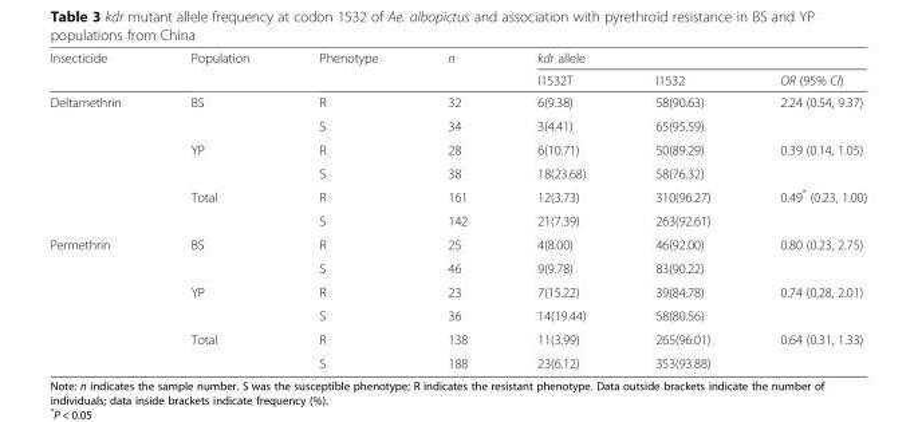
<table><thead><tr><td rowspan="2">Insecticide</td><td rowspan="2">Population</td><td rowspan="2">Phenotype</td><td rowspan="2">n</td><td colspan="3">kdr allele</td></tr><tr><td>I1532T</td><td>I1532</td><td>OR (95% CI)</td></tr></thead><tbody><tr><td rowspan="6">Deltamethrin</td><td rowspan="2">BS</td><td>R</td><td>32</td><td>6(9.38)</td><td>58(90.63)</td><td rowspan="2">2.24 (0.54, 9.37)</td></tr><tr><td>S</td><td>34</td><td>3(4.41)</td><td>65(95.59)</td></tr><tr><td rowspan="2">YP</td><td>R</td><td>28</td><td>6(10.71)</td><td>50(89.29)</td><td rowspan="2">0.39 (0.14, 1.05)</td></tr><tr><td>S</td><td>38</td><td>18(23.68)</td><td>58(76.32)</td></tr><tr><td rowspan="2">Total</td><td>R</td><td>161</td><td>12(3.73)</td><td>310(96.27)</td><td rowspan="2">0.49* (0.23, 1.00)</td></tr><tr><td>S</td><td>142</td><td>21(7.39)</td><td>263(92.61)</td></tr><tr><td rowspan="6">Permethrin</td><td rowspan="2">BS</td><td>R</td><td>25</td><td>4(8.00)</td><td>46(92.00)</td><td rowspan="2">0.80 (0.23, 2.75)</td></tr><tr><td>S</td><td>46</td><td>9(9.78)</td><td>83(90.22)</td></tr><tr><td rowspan="2">YP</td><td>R</td><td>23</td><td>7(15.22)</td><td>39(84.78)</td><td rowspan="2">0.74 (0.28, 2.01)</td></tr><tr><td>S</td><td>36</td><td>14(19.44)</td><td>58(80.56)</td></tr><tr><td rowspan="2">Total</td><td>R</td><td>138</td><td>11(3.99)</td><td>265(96.01)</td><td rowspan="2">0.64 (0.31, 1.33)</td></tr><tr><td>S</td><td>188</td><td>23(6.12)</td><td>353(93.88)</td></tr></tbody></table>